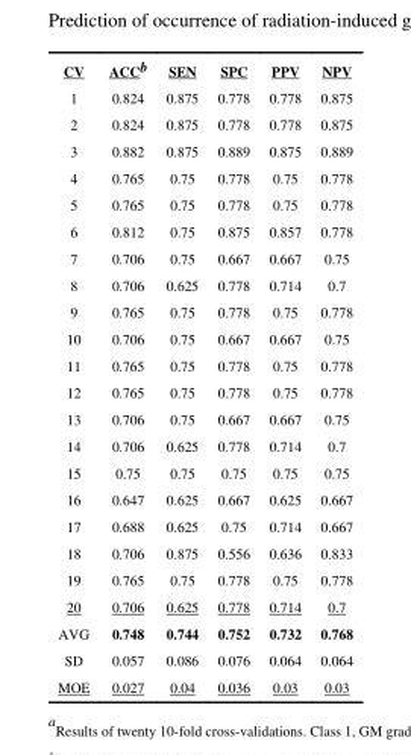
<table><thead><tr><td>CV</td><td>ACC<sup>b</sup></td><td>SEN</td><td>SPC</td><td>PPV</td><td>NPV</td></tr></thead><tbody><tr><td>1</td><td>0.824</td><td>0.875</td><td>0.778</td><td>0.778</td><td>0.875</td></tr><tr><td>2</td><td>0.824</td><td>0.875</td><td>0.778</td><td>0.778</td><td>0.875</td></tr><tr><td>3</td><td>0.882</td><td>0.875</td><td>0.889</td><td>0.875</td><td>0.889</td></tr><tr><td>4</td><td>0.765</td><td>0.75</td><td>0.778</td><td>0.75</td><td>0.778</td></tr><tr><td>5</td><td>0.765</td><td>0.75</td><td>0.778</td><td>0.75</td><td>0.778</td></tr><tr><td>6</td><td>0.812</td><td>0.75</td><td>0.875</td><td>0.857</td><td>0.778</td></tr><tr><td>7</td><td>0.706</td><td>0.75</td><td>0.667</td><td>0.667</td><td>0.75</td></tr><tr><td>8</td><td>0.706</td><td>0.625</td><td>0.778</td><td>0.714</td><td>0.7</td></tr><tr><td>9</td><td>0.765</td><td>0.75</td><td>0.778</td><td>0.75</td><td>0.778</td></tr><tr><td>10</td><td>0.706</td><td>0.75</td><td>0.667</td><td>0.667</td><td>0.75</td></tr><tr><td>11</td><td>0.765</td><td>0.75</td><td>0.778</td><td>0.75</td><td>0.778</td></tr><tr><td>12</td><td>0.765</td><td>0.75</td><td>0.778</td><td>0.75</td><td>0.778</td></tr><tr><td>13</td><td>0.706</td><td>0.75</td><td>0.667</td><td>0.667</td><td>0.75</td></tr><tr><td>14</td><td>0.706</td><td>0.625</td><td>0.778</td><td>0.714</td><td>0.7</td></tr><tr><td>15</td><td>0.75</td><td>0.75</td><td>0.75</td><td>0.75</td><td>0.75</td></tr><tr><td>16</td><td>0.647</td><td>0.625</td><td>0.667</td><td>0.625</td><td>0.667</td></tr><tr><td>17</td><td>0.688</td><td>0.625</td><td>0.75</td><td>0.714</td><td>0.667</td></tr><tr><td>18</td><td>0.706</td><td>0.875</td><td>0.556</td><td>0.636</td><td>0.833</td></tr><tr><td>19</td><td>0.765</td><td>0.75</td><td>0.778</td><td>0.75</td><td>0.778</td></tr><tr><td>20</td><td>0.706</td><td>0.625</td><td>0.778</td><td>0.714</td><td>0.7</td></tr><tr><td>AVG</td><td>0.748</td><td>0.744</td><td>0.752</td><td>0.732</td><td>0.768</td></tr><tr><td>SD</td><td>0.057</td><td>0.086</td><td>0.076</td><td>0.064</td><td>0.064</td></tr><tr><td>MOE</td><td>0.027</td><td>0.04</td><td>0.036</td><td>0.03</td><td>0.03</td></tr></tbody></table>